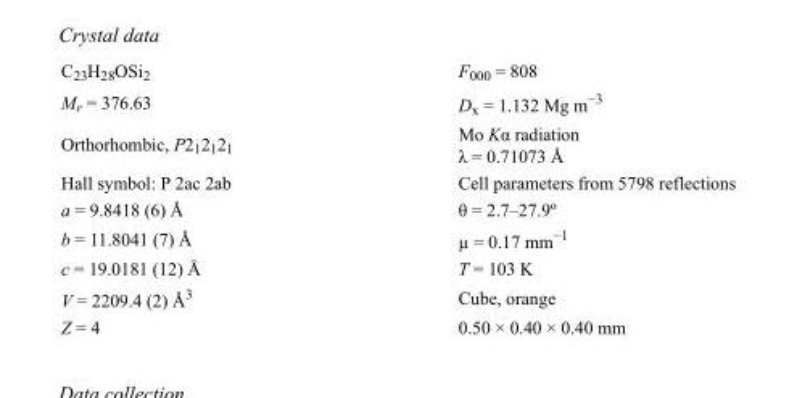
<table><tbody><tr><td>C<sub>23</sub>H<sub>28</sub>OSi<sub>2</sub></td><td>F000 = 808</td></tr><tr><td>M<sub>r</sub> = 376.63</td><td>D<sub>x</sub> = 1.132 Mg m<sup>−3</sup></td></tr><tr><td>Orthorhombic, P2<sub>1</sub>2<sub>1</sub>2<sub>1</sub></td><td>Mo Kα radiation λ = 0.71073 Å</td></tr><tr><td>Hall symbol: P 2ac 2ab</td><td>Cell parameters from 5798 reflections</td></tr><tr><td>a = 9.8418 (6) Å</td><td>θ = 2.7–27.9º</td></tr><tr><td>b = 11.8041 (7) Å</td><td>µ = 0.17 mm<sup>−1</sup></td></tr><tr><td>c = 19.0181 (12) Å</td><td>T = 103 K</td></tr><tr><td>V = 2209.4 (2) Å<sup>3</sup></td><td>Cube, orange</td></tr><tr><td>Z = 4</td><td>0.50 × 0.40 × 0.40 mm</td></tr></tbody></table>